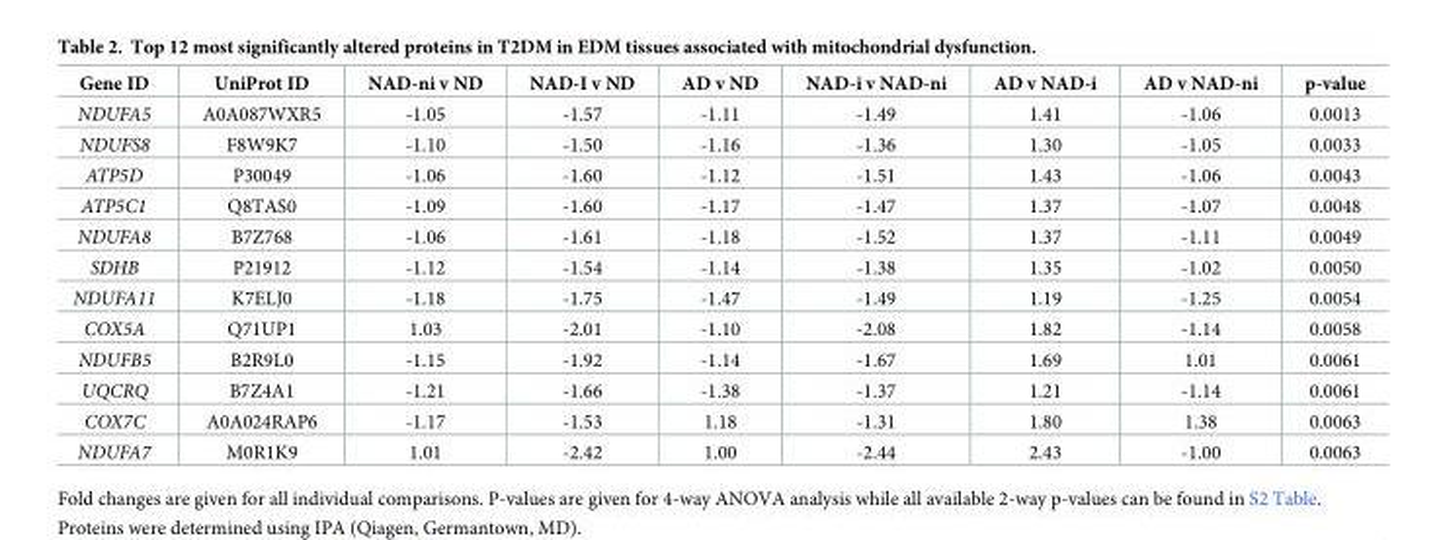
<table><thead><tr><td>Gene ID</td><td>UniProt ID</td><td>NAD-ni v ND</td><td>NAD-I v ND</td><td>AD v ND</td><td>NAD-i v NAD-ni</td><td>AD v NAD-i</td><td>AD v NAD-ni</td><td>p-value</td></tr></thead><tbody><tr><td>NDUFA5</td><td>A0A087WXR5</td><td>-1.05</td><td>-1.57</td><td>-1.11</td><td>-1.49</td><td>1.41</td><td>-1.06</td><td>0.0013</td></tr><tr><td>NDUFS8</td><td>F8W9K7</td><td>-1.10</td><td>-1.50</td><td>-1.16</td><td>-1.36</td><td>1.30</td><td>-1.05</td><td>0.0033</td></tr><tr><td>ATP5D</td><td>P30049</td><td>-1.06</td><td>-1.60</td><td>-1.12</td><td>-1.51</td><td>1.43</td><td>-1.06</td><td>0.0043</td></tr><tr><td>ATP5C1</td><td>Q8TAS0</td><td>-1.09</td><td>-1.60</td><td>-1.17</td><td>-1.47</td><td>1.37</td><td>-1.07</td><td>0.0048</td></tr><tr><td>NDUFA8</td><td>B7Z768</td><td>-1.06</td><td>-1.61</td><td>-1.18</td><td>-1.52</td><td>1.37</td><td>-1.11</td><td>0.0049</td></tr><tr><td>SDHB</td><td>P21912</td><td>-1.12</td><td>-1.54</td><td>-1.14</td><td>-1.38</td><td>1.35</td><td>-1.02</td><td>0.0050</td></tr><tr><td>NDUFA11</td><td>K7ELJ0</td><td>-1.18</td><td>-1.75</td><td>-1.47</td><td>-1.49</td><td>1.19</td><td>-1.25</td><td>0.0054</td></tr><tr><td>COX5A</td><td>Q71UP1</td><td>1.03</td><td>-2.01</td><td>-1.10</td><td>-2.08</td><td>1.82</td><td>-1.14</td><td>0.0058</td></tr><tr><td>NDUFB5</td><td>B2R9L0</td><td>-1.15</td><td>-1.92</td><td>-1.14</td><td>-1.67</td><td>1.69</td><td>1.01</td><td>0.0061</td></tr><tr><td>UQCRQ</td><td>B7Z4A1</td><td>-1.21</td><td>-1.66</td><td>-1.38</td><td>-1.37</td><td>1.21</td><td>-1.14</td><td>0.0061</td></tr><tr><td>COX7C</td><td>A0A024RAP6</td><td>-1.17</td><td>-1.53</td><td>1.18</td><td>-1.31</td><td>1.80</td><td>1.38</td><td>0.0063</td></tr><tr><td>NDUFA7</td><td>M0R1K9</td><td>1.01</td><td>-2.42</td><td>1.00</td><td>-2.44</td><td>2.43</td><td>-1.00</td><td>0.0063</td></tr></tbody></table>